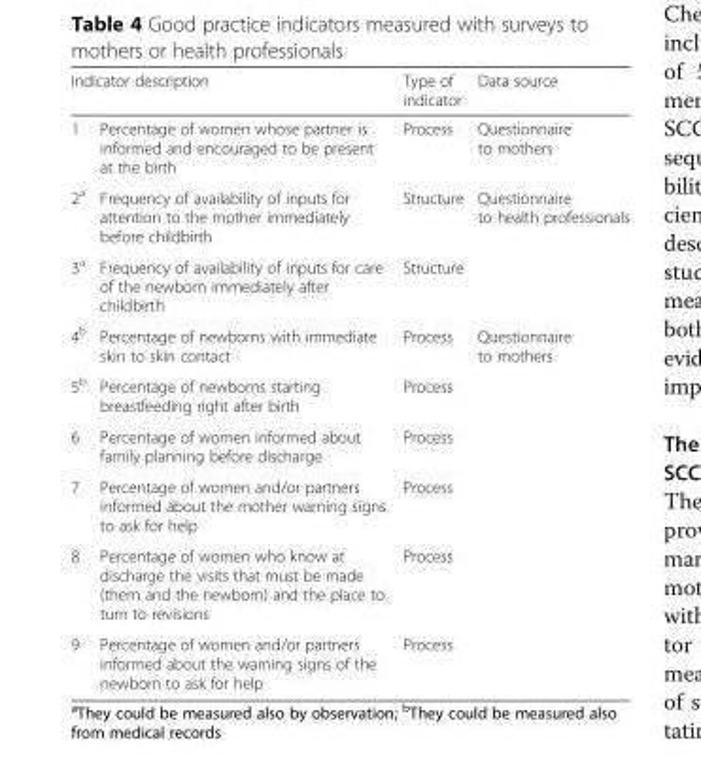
<table><thead><tr><td colspan="2">Indicator description</td><td rowspan="2">Type of indicator Process</td><td rowspan="2">Data source Questionnaire to mothers</td></tr><tr><td>1</td><td>Percentage of women whose partner is informed and encouraged to be present at the birth</td></tr></thead><tbody><tr><td>2<sup>a</sup></td><td>Frequency of availability of inputs for attention to the mother immediately before childbirth</td><td>Structure</td><td rowspan="2">Questionnaire to health professionals</td></tr><tr><td>3<sup>a</sup></td><td>Frequency of availability of inputs for care of the newborn immediately after childbirth</td><td>Structure</td></tr><tr><td>4<sup>b</sup></td><td>Percentage of newborns with immediate skin to skin contact</td><td>Process</td><td rowspan="6">Questionnaire to mothers</td></tr><tr><td>5<sup>b</sup></td><td>Percentage of newborns starting breastfeeding right after birth</td><td>Process</td></tr><tr><td>6</td><td>Percentage of women informed about family planning before discharge</td><td>Process</td></tr><tr><td>7</td><td>Percentage of women and/or partners informed about the mother warning signs to ask for help</td><td>Process</td></tr><tr><td>8</td><td>Percentage of women who know at discharge the visits that must be made (them and the newborn) and the place to turn to revisions</td><td>Process</td></tr><tr><td>9</td><td>Percentage of women and/or partners informed about the warning signs of the newborn to ask for help</td><td>Process</td></tr></tbody></table>